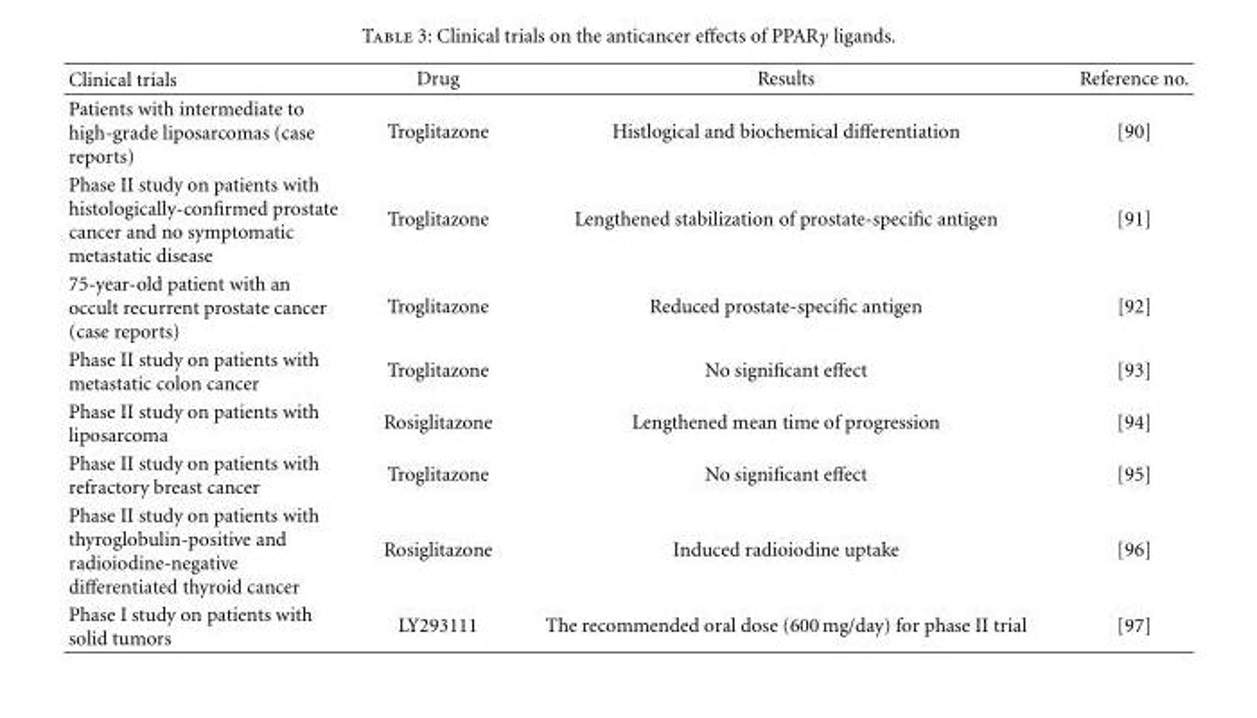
<table><thead><tr><td>Clinical trials</td><td>Drug</td><td>Results</td><td>Reference no.</td></tr></thead><tbody><tr><td>Patients with intermediate to high-grade liposarcomas (case reports)</td><td>Troglitazone</td><td>Histlogical and biochemical differentiation</td><td>[90]</td></tr><tr><td>Phase II study on patients with histologically-confirmed prostate cancer and no symptomatic metastatic disease</td><td>Troglitazone</td><td>Lengthened stabilization of prostate-specific antigen</td><td>[91]</td></tr><tr><td>75-year-old patient with an occult recurrent prostate cancer (case reports)</td><td>Troglitazone</td><td>Reduced prostate-specific antigen</td><td>[92]</td></tr><tr><td>Phase II study on patients with metastatic colon cancer</td><td>Troglitazone</td><td>No significant effect</td><td>[93]</td></tr><tr><td>Phase II study on patients with liposarcoma</td><td>Rosiglitazone</td><td>Lengthened mean time of progression</td><td>[94]</td></tr><tr><td>Phase II study on patients with refractory breast cancer</td><td>Troglitazone</td><td>No significant effect</td><td>[95]</td></tr><tr><td>Phase II study on patients with thyroglobulin-positive and radioiodine-negative differentiated thyroid cancer</td><td>Rosiglitazone</td><td>Induced radioiodine uptake</td><td>[96]</td></tr><tr><td>Phase I study on patients with solid tumors</td><td>LY293111</td><td>The recommended oral dose (600 mg/day) for phase II trial</td><td>[97]</td></tr></tbody></table>